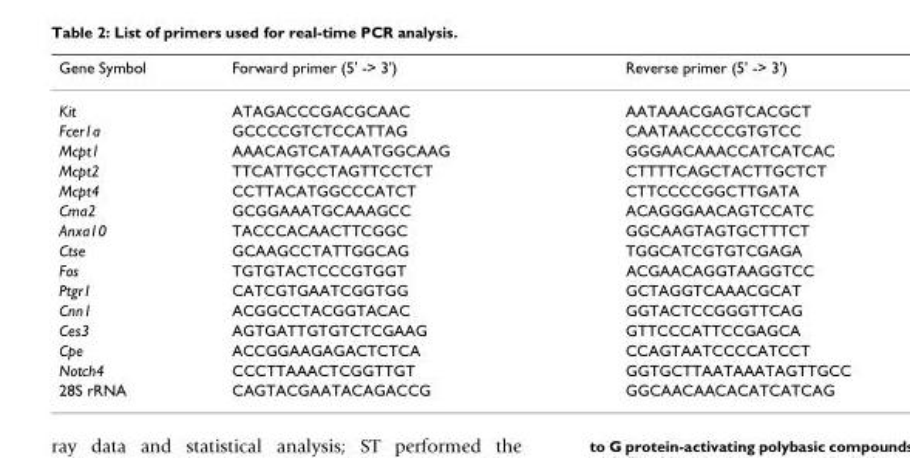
<table><thead><tr><td>Gene Symbol</td><td>Forward primer (5&#x27; -&gt; 3&#x27;)</td><td>Reverse primer (5&#x27; -&gt; 3&#x27;)</td></tr></thead><tbody><tr><td>Kit</td><td>ATAGACCCGACGCAAC</td><td>AATAAACGAGTCACGCT</td></tr><tr><td>Fcer1a</td><td>GCCCCGTCTCCATTAG</td><td>CAATAACCCCGTGTCC</td></tr><tr><td>Mcpt1</td><td>AAACAGTCATAAATGGCAAG</td><td>GGGAACAAACCATCATCAC</td></tr><tr><td>Mcpt2</td><td>TTCATTGCCTAGTTCCTCT</td><td>CTTTTCAGCTACTTGCTCT</td></tr><tr><td>Mcpt4</td><td>CCTTACATGGCCCATCT</td><td>CTTCCCCGGCTTGATA</td></tr><tr><td>Cma2</td><td>GCGGAAATGCAAAGCC</td><td>ACAGGGAACAGTCCATC</td></tr><tr><td>Anxa10</td><td>TACCCACAACTTCGGC</td><td>GGCAAGTAGTGCTTTCT</td></tr><tr><td>Ctse</td><td>GCAAGCCTATTGGCAG</td><td>TGGCATCGTGTCGAGA</td></tr><tr><td>Fos</td><td>TGTGTACTCCCGTGGT</td><td>ACGAACAGGTAAGGTCC</td></tr><tr><td>Ptgr1</td><td>CATCGTGAATCGGTGG</td><td>GCTAGGTCAAACGCAT</td></tr><tr><td>Cnn1</td><td>ACGGCCTACGGTACAC</td><td>GGTACTCCGGGTTCAG</td></tr><tr><td>Ces3</td><td>AGTGATTGTGTCTCGAAG</td><td>GTTCCCATTCCGAGCA</td></tr><tr><td>Cpe</td><td>ACCGGAAGAGACTCTCA</td><td>CCAGTAATCCCCATCCT</td></tr><tr><td>Notch4</td><td>CCCTTAAACTCGGTTGT</td><td>GGTGCTTAATAAATAGTTGCC</td></tr><tr><td>28S rRNA</td><td>CAGTACGAATACAGACCG</td><td>GGCAACAACACATCATCAG</td></tr></tbody></table>